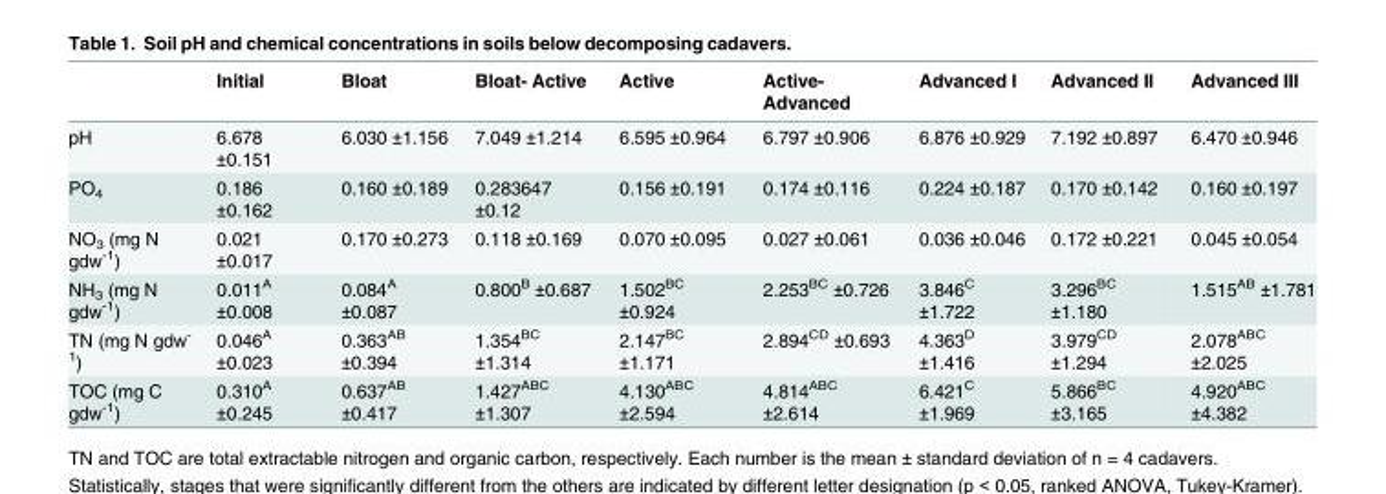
<table><thead><tr><td></td><td>Initial</td><td>Bloat</td><td>Bloat- Active</td><td>Active</td><td>Active- Advanced</td><td>Advanced I</td><td>Advanced II</td><td>Advanced III</td></tr></thead><tbody><tr><td>pH</td><td>6.678 ±0.151</td><td>6.030 ±1.156</td><td>7.049 ±1.214</td><td>6.595 ±0.964</td><td>6.797 ±0.906</td><td>6.876 ±0.929</td><td>7.192 ±0.897</td><td>6.470 ±0.946</td></tr><tr><td>PO<sub>4</sub></td><td>0.186 ±0.162</td><td>0.160 ±0.189</td><td>0.283647 ±0.12</td><td>0.156 ±0.191</td><td>0.174 ±0.116</td><td>0.224 ±0.187</td><td>0.170 ±0.142</td><td>0.160 ±0.197</td></tr><tr><td>NO<sub>3</sub> (mg N gdw<sup>-1</sup>)</td><td>0.021 ±0.017</td><td>0.170 ±0.273</td><td>0.118 ±0.169</td><td>0.070 ±0.095</td><td>0.027 ±0.061</td><td>0.036 ±0.046</td><td>0.172 ±0.221</td><td>0.045 ±0.054</td></tr><tr><td>NH<sub>3</sub> (mg N gdw<sup>-1</sup>)</td><td>0.011<sup>A</sup> ±0.008</td><td>0.084<sup>A</sup> ±0.087</td><td>0.800<sup>B</sup> ±0.687</td><td>1.502<sup>BC</sup> ±0.924</td><td>2.253<sup>BC</sup> ±0.726</td><td>3.846<sup>C</sup> ±1.722</td><td>3.296<sup>BC</sup> ±1.180</td><td>1.515<sup>AB</sup> ±1.781</td></tr><tr><td>TN (mg N gdw<sup>- 1</sup>)</td><td>0.046<sup>A</sup> ±0.023</td><td>0.363<sup>AB</sup> ±0.394</td><td>1.354<sup>BC</sup> ±1.314</td><td>2.147<sup>BC</sup> ±1.171</td><td>2.894<sup>CD</sup> ±0.693</td><td>4.363<sup>D</sup> ±1.416</td><td>3.979<sup>CD</sup> ±1.294</td><td>2.078<sup>ABC</sup> ±2.025</td></tr><tr><td>TOC (mg C gdw<sup>-1</sup>)</td><td>0.310<sup>A</sup> ±0.245</td><td>0.637<sup>AB</sup> ±0.417</td><td>1.427<sup>ABC</sup> ±1.307</td><td>4.130<sup>ABC</sup> ±2.594</td><td>4.814<sup>ABC</sup> ±2.614</td><td>6.421<sup>C</sup> ±1.969</td><td>5.866<sup>BC</sup> ±3.165</td><td>4.920<sup>ABC</sup> ±4.382</td></tr></tbody></table>